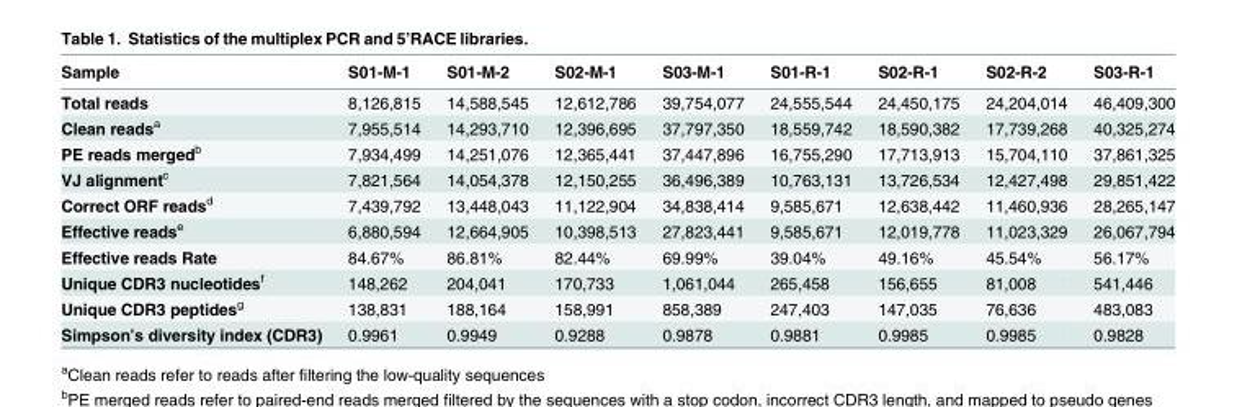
<table><thead><tr><td>Sample</td><td>S01-M-1</td><td>S01-M-2</td><td>S02-M-1</td><td>S03-M-1</td><td>S01-R-1</td><td>S02-R-1</td><td>S02-R-2</td><td>S03-R-1</td></tr></thead><tbody><tr><td>Total reads</td><td>8,126,815</td><td>14,588,545</td><td>12,612,786</td><td>39,754,077</td><td>24,555,544</td><td>24,450,175</td><td>24,204,014</td><td>46,409,300</td></tr><tr><td>Clean reads<sup>a</sup></td><td>7,955,514</td><td>14,293,710</td><td>12,396,695</td><td>37,797,350</td><td>18,559,742</td><td>18,590,382</td><td>17,739,268</td><td>40,325,274</td></tr><tr><td>PE reads merged<sup>b</sup></td><td>7,934,499</td><td>14,251,076</td><td>12,365,441</td><td>37,447,896</td><td>16,755,290</td><td>17,713,913</td><td>15,704,110</td><td>37,861,325</td></tr><tr><td>VJ alignment<sup>c</sup></td><td>7,821,564</td><td>14,054,378</td><td>12,150,255</td><td>36,496,389</td><td>10,763,131</td><td>13,726,534</td><td>12,427,498</td><td>29,851,422</td></tr><tr><td>Correct ORF reads<sup>d</sup></td><td>7,439,792</td><td>13,448,043</td><td>11,122,904</td><td>34,838,414</td><td>9,585,671</td><td>12,638,442</td><td>11,460,936</td><td>28,265,147</td></tr><tr><td>Effective reads<sup>e</sup></td><td>6,880,594</td><td>12,664,905</td><td>10,398,513</td><td>27,823,441</td><td>9,585,671</td><td>12,019,778</td><td>11,023,329</td><td>26,067,794</td></tr><tr><td>Effective reads Rate</td><td>84.67%</td><td>86.81%</td><td>82.44%</td><td>69.99%</td><td>39.04%</td><td>49.16%</td><td>45.54%</td><td>56.17%</td></tr><tr><td>Unique CDR3 nucleotides<sup>f</sup></td><td>148,262</td><td>204,041</td><td>170,733</td><td>1,061,044</td><td>265,458</td><td>156,655</td><td>81,008</td><td>541,446</td></tr><tr><td>Unique CDR3 peptides<sup>g</sup></td><td>138,831</td><td>188,164</td><td>158,991</td><td>858,389</td><td>247,403</td><td>147,035</td><td>76,636</td><td>483,083</td></tr><tr><td>Simpson’s diversity index (CDR3)</td><td>0.9961</td><td>0.9949</td><td>0.9288</td><td>0.9878</td><td>0.9881</td><td>0.9985</td><td>0.9985</td><td>0.9828</td></tr></tbody></table>